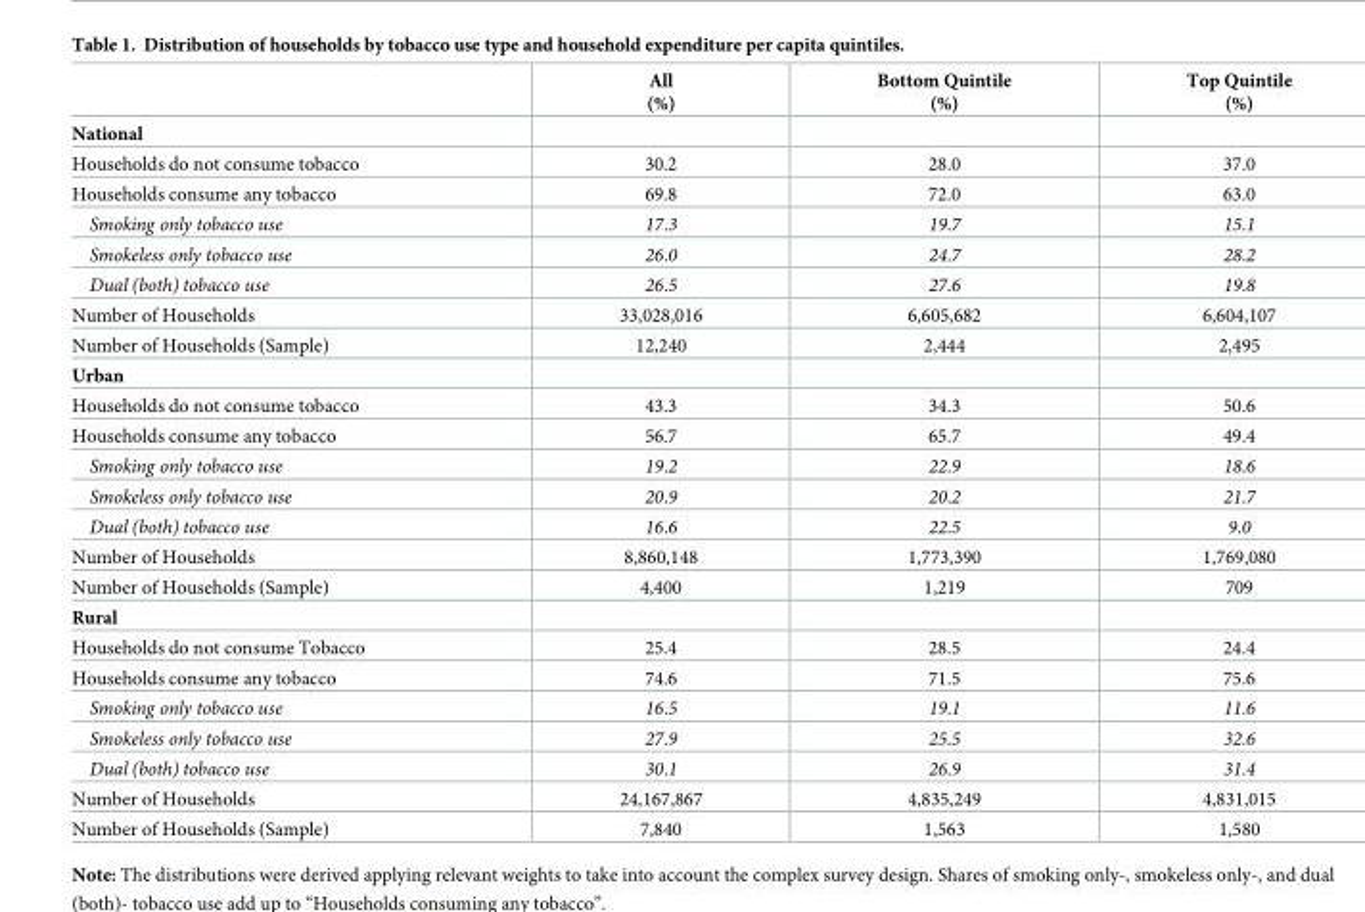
<table><thead><tr><td></td><td>All (%)</td><td>Bottom Quintile (%)</td><td>Top Quintile (%)</td></tr></thead><tbody><tr><td colspan="4">National</td></tr><tr><td>Households do not consume tobacco</td><td>30.2</td><td>28.0</td><td>37.0</td></tr><tr><td>Households consume any tobacco</td><td>69.8</td><td>72.0</td><td>63.0</td></tr><tr><td>Smoking only tobacco use</td><td>17.3</td><td>19.7</td><td>15.1</td></tr><tr><td>Smokeless only tobacco use</td><td>26.0</td><td>24.7</td><td>28.2</td></tr><tr><td>Dual (both) tobacco use</td><td>26.5</td><td>27.6</td><td>19.8</td></tr><tr><td>Number of Households</td><td>33,028,016</td><td>6,605,682</td><td>6,604,107</td></tr><tr><td>Number of Households (Sample)</td><td>12,240</td><td>2,444</td><td>2,495</td></tr><tr><td colspan="4">Urban</td></tr><tr><td>Households do not consume tobacco</td><td>43.3</td><td>34.3</td><td>50.6</td></tr><tr><td>Households consume any tobacco</td><td>56.7</td><td>65.7</td><td>49.4</td></tr><tr><td>Smoking only tobacco use</td><td>19.2</td><td>22.9</td><td>18.6</td></tr><tr><td>Smokeless only tobacco use</td><td>20.9</td><td>20.2</td><td>21.7</td></tr><tr><td>Dual (both) tobacco use</td><td>16.6</td><td>22.5</td><td>9.0</td></tr><tr><td>Number of Households</td><td>8,860,148</td><td>1,773,390</td><td>1,769,080</td></tr><tr><td>Number of Households (Sample)</td><td>4,400</td><td>1,219</td><td>709</td></tr><tr><td colspan="4">Rural</td></tr><tr><td>Households do not consume Tobacco</td><td>25.4</td><td>28.5</td><td>24.4</td></tr><tr><td>Households consume any tobacco</td><td>74.6</td><td>71.5</td><td>75.6</td></tr><tr><td>Smoking only tobacco use</td><td>16.5</td><td>19.1</td><td>11.6</td></tr><tr><td>Smokeless only tobacco use</td><td>27.9</td><td>25.5</td><td>32.6</td></tr><tr><td>Dual (both) tobacco use</td><td>30.1</td><td>26.9</td><td>31.4</td></tr><tr><td>Number of Households</td><td>24,167,867</td><td>4,835,249</td><td>4,831,015</td></tr><tr><td>Number of Households (Sample)</td><td>7,840</td><td>1,563</td><td>1,580</td></tr></tbody></table>